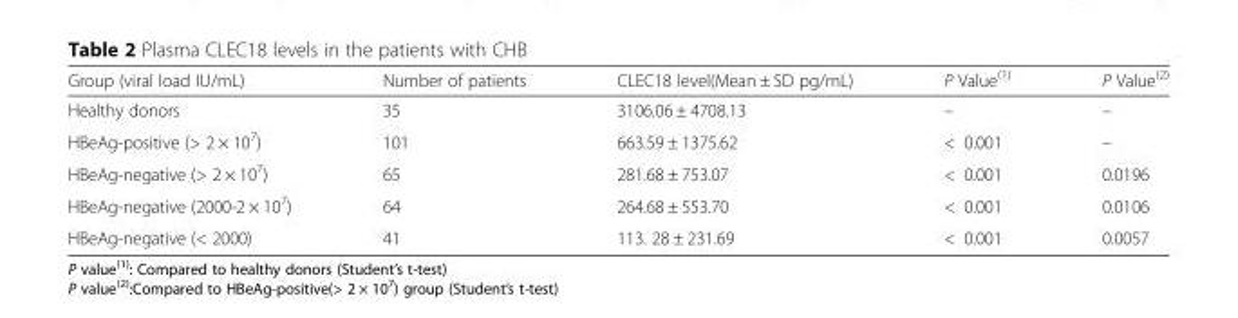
<table><thead><tr><td>Group (viral load IU/mL)</td><td>Number of patients</td><td>CLEC18 level(Mean ± SD pg/mL)</td><td>P Value<sup>(1)</sup></td><td>P Value<sup>(2)</sup></td></tr></thead><tbody><tr><td>Healthy donors</td><td>35</td><td>3106.06 ± 4708.13</td><td>–</td><td>–</td></tr><tr><td>HBeAg-positive (&gt; 2 × 10<sup>7</sup>)</td><td>101</td><td>663.59 ± 1375.62</td><td>&lt; 0.001</td><td>–</td></tr><tr><td>HBeAg-negative (&gt; 2 × 10<sup>7</sup>)</td><td>65</td><td>281.68 ± 753.07</td><td>&lt; 0.001</td><td>0.0196</td></tr><tr><td>HBeAg-negative (2000-2 × 10<sup>7</sup>)</td><td>64</td><td>264.68 ± 553.70</td><td>&lt; 0.001</td><td>0.0106</td></tr><tr><td>HBeAg-negative (&lt; 2000)</td><td>41</td><td>113. 28 ± 231.69</td><td>&lt; 0.001</td><td>0.0057</td></tr></tbody></table>